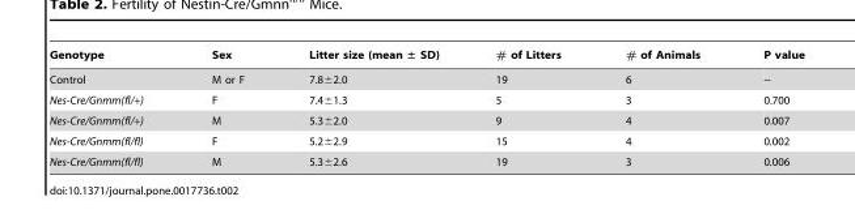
<table><thead><tr><td>Genotype</td><td>Sex</td><td>Litter size (mean ± SD)</td><td># of Litters</td><td># of Animals</td><td>P value</td></tr></thead><tbody><tr><td>Control</td><td>M or F</td><td>7.8±2.0</td><td>19</td><td>6</td><td>--</td></tr><tr><td>Nes-Cre/Gnmm(fl/+)</td><td>F</td><td>7.4±1.3</td><td>5</td><td>3</td><td>0.700</td></tr><tr><td>Nes-Cre/Gnmm(fl/+)</td><td>M</td><td>5.3±2.0</td><td>9</td><td>4</td><td>0.007</td></tr><tr><td>Nes-Cre/Gnmm(fl/fl)</td><td>F</td><td>5.2±2.9</td><td>15</td><td>4</td><td>0.002</td></tr><tr><td>Nes-Cre/Gnmm(fl/fl)</td><td>M</td><td>5.3±2.6</td><td>19</td><td>3</td><td>0.006</td></tr></tbody></table>